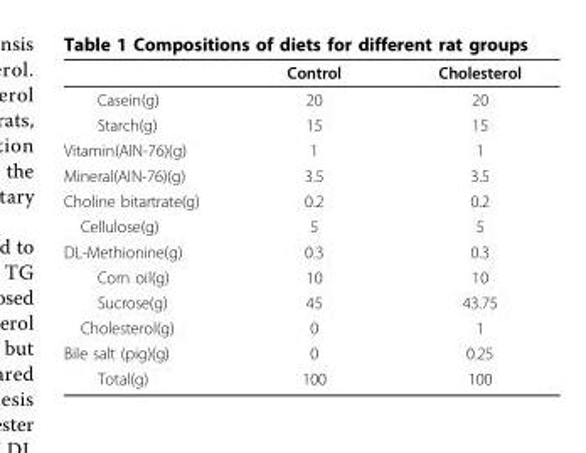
<table><thead><tr><td></td><td>Control</td><td>Cholesterol</td></tr></thead><tbody><tr><td>Casein(g)</td><td>20</td><td>20</td></tr><tr><td>Starch(g)</td><td>15</td><td>15</td></tr><tr><td>Vitamin(AIN-76)(g)</td><td>1</td><td>1</td></tr><tr><td>Mineral(AIN-76)(g)</td><td>3.5</td><td>3.5</td></tr><tr><td>Choline bitartrate(g)</td><td>0.2</td><td>0.2</td></tr><tr><td>Cellulose(g)</td><td>5</td><td>5</td></tr><tr><td>DL-Methionine(g)</td><td>0.3</td><td>0.3</td></tr><tr><td>Corn oil(g)</td><td>10</td><td>10</td></tr><tr><td>Sucrose(g)</td><td>45</td><td>43.75</td></tr><tr><td>Cholesterol(g)</td><td>0</td><td>1</td></tr><tr><td>Bile salt (pig)(g)</td><td>0</td><td>0.25</td></tr><tr><td>Total(g)</td><td>100</td><td>100</td></tr></tbody></table>